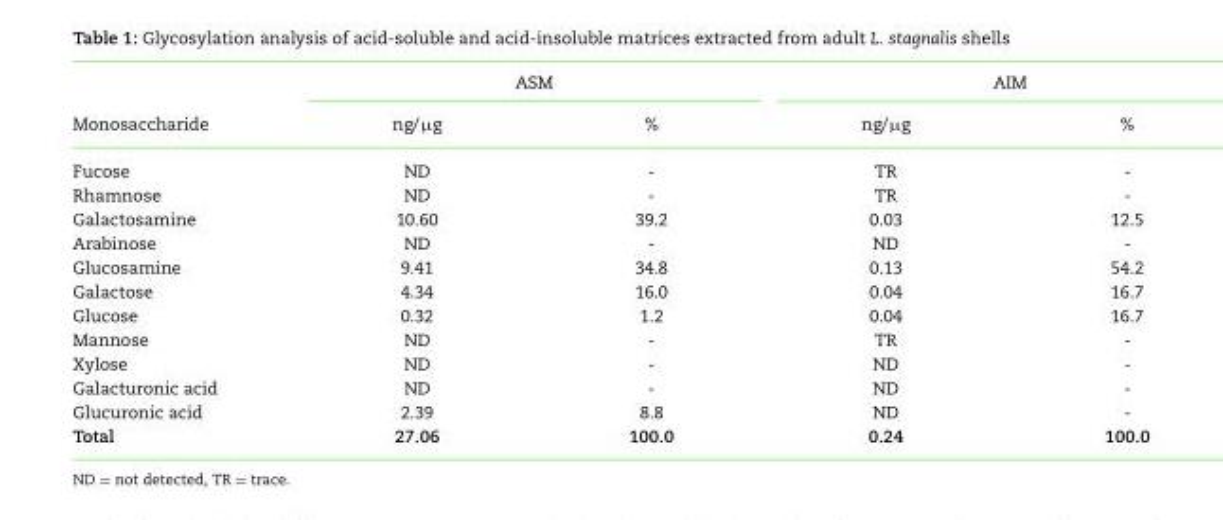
<table><thead><tr><td rowspan="2">Monosaccharide</td><td colspan="2">ASM</td><td colspan="2">AIM</td></tr><tr><td>ng/μg</td><td>%</td><td>ng/μg</td><td>%</td></tr></thead><tbody><tr><td>Fucose</td><td>ND</td><td>-</td><td>TR</td><td>-</td></tr><tr><td>Rhamnose</td><td>ND</td><td>-</td><td>TR</td><td>-</td></tr><tr><td>Galactosamine</td><td>10.60</td><td>39.2</td><td>0.03</td><td>12.5</td></tr><tr><td>Arabinose</td><td>ND</td><td>-</td><td>ND</td><td>-</td></tr><tr><td>Glucosamine</td><td>9.41</td><td>34.8</td><td>0.13</td><td>54.2</td></tr><tr><td>Galactose</td><td>4.34</td><td>16.0</td><td>0.04</td><td>16.7</td></tr><tr><td>Glucose</td><td>0.32</td><td>1.2</td><td>0.04</td><td>16.7</td></tr><tr><td>Mannose</td><td>ND</td><td>-</td><td>TR</td><td>-</td></tr><tr><td>Xylose</td><td>ND</td><td>-</td><td>ND</td><td>-</td></tr><tr><td>Galacturonic acid</td><td>ND</td><td>-</td><td>ND</td><td>-</td></tr><tr><td>Glucuronic acid</td><td>2.39</td><td>8.8</td><td>ND</td><td>-</td></tr><tr><td>Total</td><td>27.06</td><td>100.0</td><td>0.24</td><td>100.0</td></tr></tbody></table>